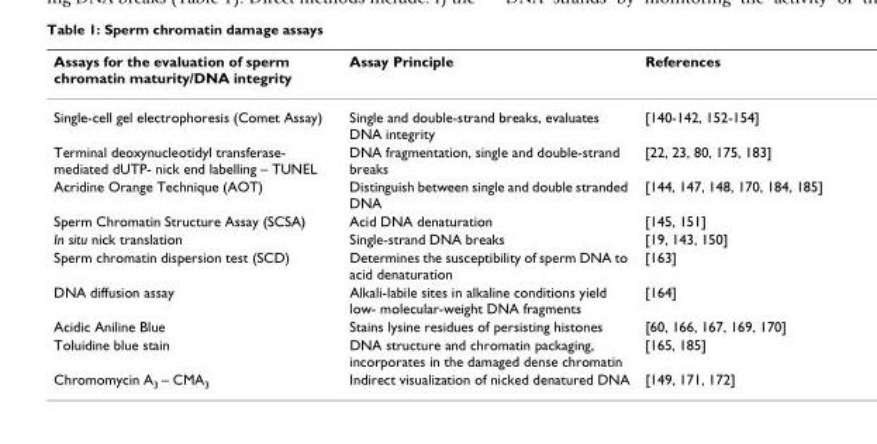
<table><thead><tr><td>Assays for the evaluation of sperm chromatin maturity/DNA integrity</td><td>Assay Principle</td><td>References</td></tr></thead><tbody><tr><td>Single-cell gel electrophoresis (Comet Assay)</td><td>Single and double-strand breaks, evaluates DNA integrity</td><td>[140-142, 152-154]</td></tr><tr><td>Terminal deoxynucleotidyl transferase- mediated dUTP- nick end labelling – TUNEL</td><td>DNA fragmentation, single and double-strand breaks</td><td>[22, 23, 80, 175, 183]</td></tr><tr><td>Acridine Orange Technique (AOT)</td><td>Distinguish between single and double stranded DNA</td><td>[144, 147, 148, 170, 184, 185]</td></tr><tr><td>Sperm Chromatin Structure Assay (SCSA)</td><td>Acid DNA denaturation</td><td>[145, 151]</td></tr><tr><td>In situ nick translation</td><td>Single-strand DNA breaks</td><td>[19, 143, 150]</td></tr><tr><td>Sperm chromatin dispersion test (SCD)</td><td>Determines the susceptibility of sperm DNA to acid denaturation</td><td>[163]</td></tr><tr><td>DNA diffusion assay</td><td>Alkali-labile sites in alkaline conditions yield low- molecular-weight DNA fragments</td><td>[164]</td></tr><tr><td>Acidic Aniline Blue</td><td>Stains lysine residues of persisting histones</td><td>[60, 166, 167, 169, 170]</td></tr><tr><td>Toluidine blue stain</td><td>DNA structure and chromatin packaging, incorporates in the damaged dense chromatin</td><td>[165, 185]</td></tr><tr><td>Chromomycin A<sub>3</sub> – CMA<sub>3</sub></td><td>Indirect visualization of nicked denatured DNA</td><td>[149, 171, 172]</td></tr></tbody></table>